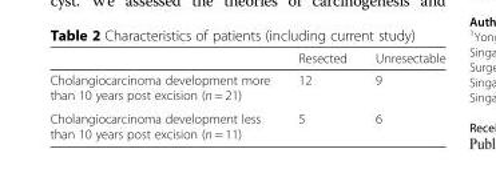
<table><thead><tr><td></td><td>Resected</td><td>Unresectable</td></tr></thead><tbody><tr><td>Cholangiocarcinoma development more than 10 years post excision (n = 21)</td><td>12</td><td>9</td></tr><tr><td>Cholangiocarcinoma development less than 10 years post excision (n = 11)</td><td>5</td><td>6</td></tr></tbody></table>